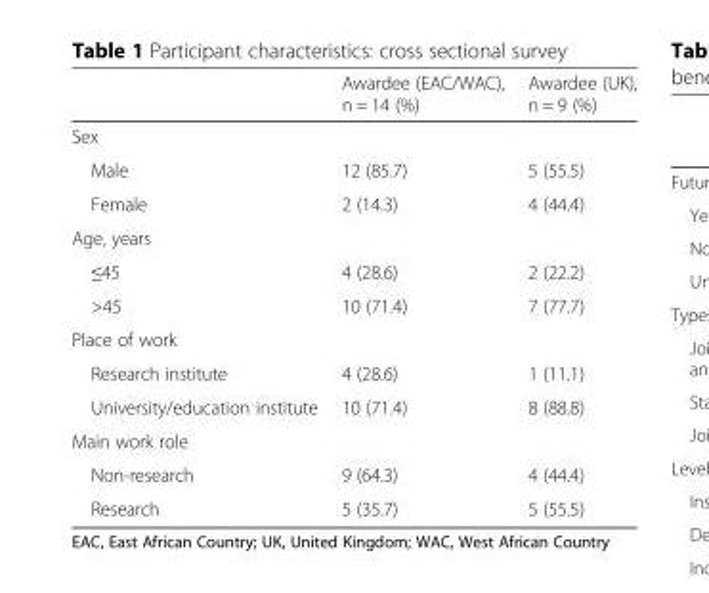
<table><thead><tr><td></td><td>Awardee (EAC/WAC), n = 14 (%)</td><td>Awardee (UK), n = 9 (%)</td></tr></thead><tbody><tr><td colspan="3">Sex</td></tr><tr><td>Male</td><td>12 (85.7)</td><td>5 (55.5)</td></tr><tr><td>Female</td><td>2 (14.3)</td><td>4 (44.4)</td></tr><tr><td colspan="3">Age, years</td></tr><tr><td>≤45</td><td>4 (28.6)</td><td>2 (22.2)</td></tr><tr><td>&gt;45</td><td>10 (71.4)</td><td>7 (77.7)</td></tr><tr><td colspan="3">Place of work</td></tr><tr><td>Research institute</td><td>4 (28.6)</td><td>1 (11.1)</td></tr><tr><td>University/education institute</td><td>10 (71.4)</td><td>8 (88.8)</td></tr><tr><td colspan="3">Main work role</td></tr><tr><td>Non-research</td><td>9 (64.3)</td><td>4 (44.4)</td></tr><tr><td>Research</td><td>5 (35.7)</td><td>5 (55.5)</td></tr></tbody></table>